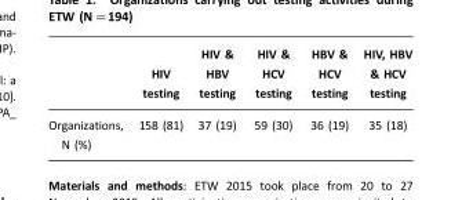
<table><thead><tr><td></td><td>HIV testing</td><td>HIV &amp; HBV testing</td><td>HIV &amp; HCV testing</td><td>HBV &amp; HCV testing</td><td>HIV, HBV &amp; HCV testing</td></tr></thead><tbody><tr><td>Organizations, N (%)</td><td>158 (81)</td><td>37 (19)</td><td>59 (30)</td><td>36 (19)</td><td>35 (18)</td></tr></tbody></table>